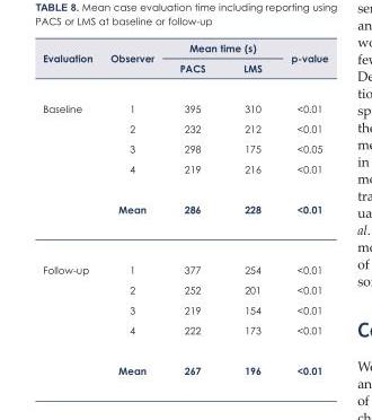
<table><thead><tr><td rowspan="2">Evaluation</td><td rowspan="2">Observer</td><td colspan="2">Mean time (s)</td><td rowspan="2">p-value</td></tr><tr><td>PACS</td><td>LMS</td></tr></thead><tbody><tr><td rowspan="5">Baseline</td><td>1</td><td>395</td><td>310</td><td>&lt;0.01</td></tr><tr><td>2</td><td>232</td><td>212</td><td>&lt;0.01</td></tr><tr><td>3</td><td>298</td><td>175</td><td>&lt;0.05</td></tr><tr><td>4</td><td>219</td><td>216</td><td>&lt;0.01</td></tr><tr><td>Mean</td><td>286</td><td>228</td><td>&lt;0.01</td></tr><tr><td rowspan="5">Follow-up</td><td>1</td><td>377</td><td>254</td><td>&lt;0.01</td></tr><tr><td>2</td><td>252</td><td>201</td><td>&lt;0.01</td></tr><tr><td>3</td><td>219</td><td>154</td><td>&lt;0.01</td></tr><tr><td>4</td><td>222</td><td>173</td><td>&lt;0.01</td></tr><tr><td>Mean</td><td>267</td><td>196</td><td>&lt;0.01</td></tr></tbody></table>